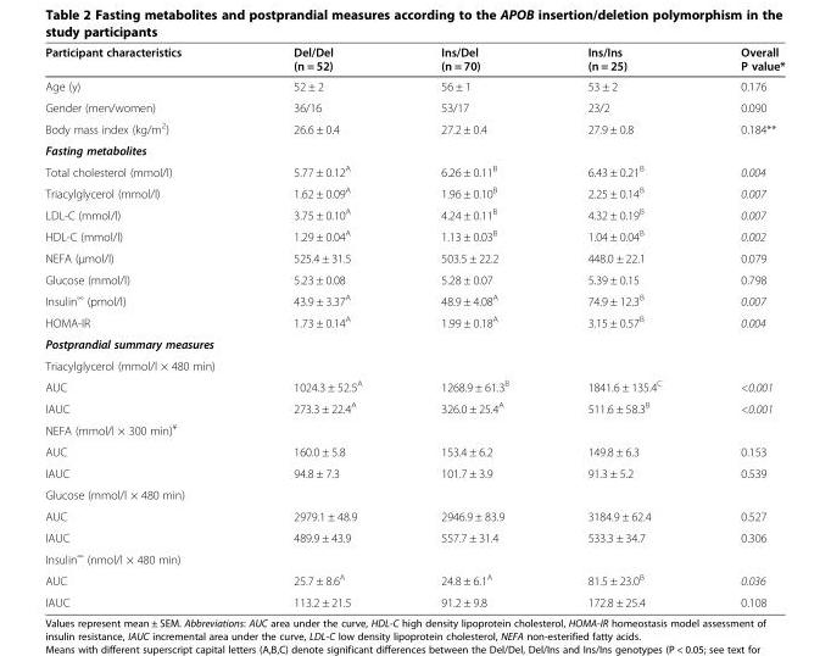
<table><thead><tr><td>Participant characteristics</td><td>Del/Del (n = 52)</td><td>Ins/Del (n = 70)</td><td>Ins/Ins (n = 25)</td><td>Overall P value*</td></tr></thead><tbody><tr><td>Age (y)</td><td>52 ± 2</td><td>56 ± 1</td><td>53 ± 2</td><td>0.176</td></tr><tr><td>Gender (men/women)</td><td>36/16</td><td>53/17</td><td>23/2</td><td>0.090</td></tr><tr><td>Body mass index (kg/m<sup>2</sup>)</td><td>26.6 ± 0.4</td><td>27.2 ± 0.4</td><td>27.9 ± 0.8</td><td>0.184**</td></tr><tr><td colspan="5">Fasting metabolites</td></tr><tr><td>Total cholesterol (mmol/l)</td><td>5.77 ± 0.12<sup>A</sup></td><td>6.26 ± 0.11<sup>B</sup></td><td>6.43 ± 0.21<sup>B</sup></td><td>0.004</td></tr><tr><td>Triacylglycerol (mmol/l)</td><td>1.62 ± 0.09<sup>A</sup></td><td>1.96 ± 0.10<sup>B</sup></td><td>2.25 ± 0.14<sup>B</sup></td><td>0.007</td></tr><tr><td>LDL-C (mmol/l)</td><td>3.75 ± 0.10<sup>A</sup></td><td>4.24 ± 0.11<sup>B</sup></td><td>4.32 ± 0.19<sup>B</sup></td><td>0.007</td></tr><tr><td>HDL-C (mmol/l)</td><td>1.29 ± 0.04<sup>A</sup></td><td>1.13 ± 0.03<sup>B</sup></td><td>1.04 ± 0.04<sup>B</sup></td><td>0.002</td></tr><tr><td>NEFA (μmol/l)</td><td>525.4 ± 31.5</td><td>503.5 ± 22.2</td><td>448.0 ± 22.1</td><td>0.079</td></tr><tr><td>Glucose (mmol/l)</td><td>5.23 ± 0.08</td><td>5.28 ± 0.07</td><td>5.39 ± 0.15</td><td>0.798</td></tr><tr><td>Insulin<sup>∞</sup> (pmol/l)</td><td>43.9 ± 3.37<sup>A</sup></td><td>48.9 ± 4.08<sup>A</sup></td><td>74.9 ± 12.3<sup>B</sup></td><td>0.007</td></tr><tr><td>HOMA-IR</td><td>1.73 ± 0.14<sup>A</sup></td><td>1.99 ± 0.18<sup>A</sup></td><td>3.15 ± 0.57<sup>B</sup></td><td>0.004</td></tr><tr><td colspan="5">Postprandial summary measures</td></tr><tr><td colspan="5">Triacylglycerol (mmol/l × 480 min)</td></tr><tr><td>AUC</td><td>1024.3 ± 52.5<sup>A</sup></td><td>1268.9 ± 61.3<sup>B</sup></td><td>1841.6 ± 135.4<sup>C</sup></td><td>&lt;0.001</td></tr><tr><td>IAUC</td><td>273.3 ± 22.4<sup>A</sup></td><td>326.0 ± 25.4<sup>A</sup></td><td>511.6 ± 58.3<sup>B</sup></td><td>&lt;0.001</td></tr><tr><td colspan="5">NEFA (mmol/l × 300 min)<sup>¥</sup></td></tr><tr><td>AUC</td><td>160.0 ± 5.8</td><td>153.4 ± 6.2</td><td>149.8 ± 6.3</td><td>0.153</td></tr><tr><td>IAUC</td><td>94.8 ± 7.3</td><td>101.7 ± 3.9</td><td>91.3 ± 5.2</td><td>0.539</td></tr><tr><td colspan="5">Glucose (mmol/l × 480 min)</td></tr><tr><td>AUC</td><td>2979.1 ± 48.9</td><td>2946.9 ± 83.9</td><td>3184.9 ± 62.4</td><td>0.527</td></tr><tr><td>IAUC</td><td>489.9 ± 43.9</td><td>557.7 ± 31.4</td><td>533.3 ± 34.7</td><td>0.306</td></tr><tr><td colspan="5">Insulin<sup>∞</sup> (nmol/l × 480 min)</td></tr><tr><td>AUC</td><td>25.7 ± 8.6<sup>A</sup></td><td>24.8 ± 6.1<sup>A</sup></td><td>81.5 ± 23.0<sup>B</sup></td><td>0.036</td></tr><tr><td>IAUC</td><td>113.2 ± 21.5</td><td>91.2 ± 9.8</td><td>172.8 ± 25.4</td><td>0.108</td></tr></tbody></table>